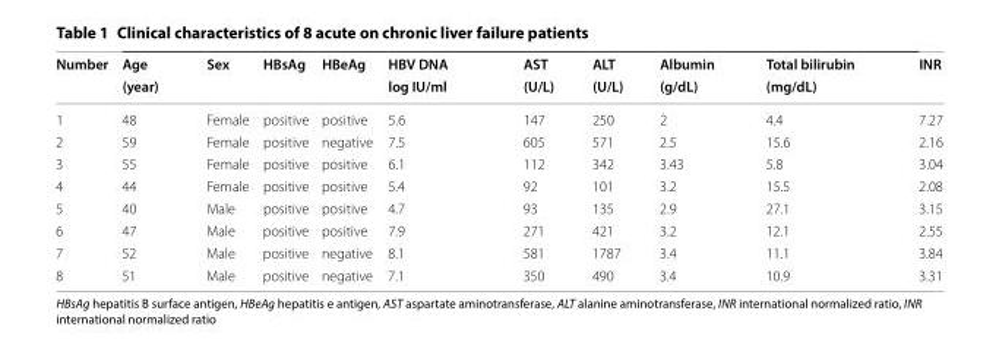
<table><thead><tr><td rowspan="2">Number</td><td rowspan="2">Age (year)</td><td rowspan="2">Sex</td><td rowspan="2">HBsAg</td><td rowspan="2">HBeAg</td><td rowspan="2">HBV DNA log IU/ml</td><td rowspan="2">AST (U/L)</td><td rowspan="2">ALT (U/L)</td><td rowspan="2">Albumin (g/dL)</td><td rowspan="2">Total bilirubin (mg/dL)</td><td rowspan="2">INR</td></tr><tr></tr></thead><tbody><tr><td>1</td><td>48</td><td>Female</td><td>positive</td><td>positive</td><td>5.6</td><td>147</td><td>250</td><td>2</td><td>4.4</td><td>7.27</td></tr><tr><td>2</td><td>59</td><td>Female</td><td>positive</td><td>negative</td><td>7.5</td><td>605</td><td>571</td><td>2.5</td><td>15.6</td><td>2.16</td></tr><tr><td>3</td><td>55</td><td>Female</td><td>positive</td><td>positive</td><td>6.1</td><td>112</td><td>342</td><td>3.43</td><td>5.8</td><td>3.04</td></tr><tr><td>4</td><td>44</td><td>Female</td><td>positive</td><td>positive</td><td>5.4</td><td>92</td><td>101</td><td>3.2</td><td>15.5</td><td>2.08</td></tr><tr><td>5</td><td>40</td><td>Male</td><td>positive</td><td>positive</td><td>4.7</td><td>93</td><td>135</td><td>2.9</td><td>27.1</td><td>3.15</td></tr><tr><td>6</td><td>47</td><td>Male</td><td>positive</td><td>positive</td><td>7.9</td><td>271</td><td>421</td><td>3.2</td><td>12.1</td><td>2.55</td></tr><tr><td>7</td><td>52</td><td>Male</td><td>positive</td><td>negative</td><td>8.1</td><td>581</td><td>1787</td><td>3.4</td><td>11.1</td><td>3.84</td></tr><tr><td>8</td><td>51</td><td>Male</td><td>positive</td><td>negative</td><td>7.1</td><td>350</td><td>490</td><td>3.4</td><td>10.9</td><td>3.31</td></tr></tbody></table>